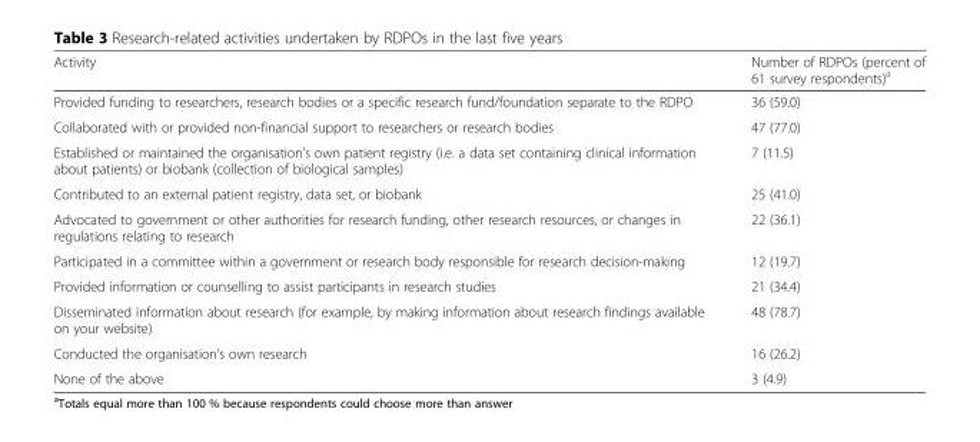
<table><thead><tr><td>Activity</td><td>Number of RDPOs (percent of 61 survey respondents)<sup>a</sup></td></tr></thead><tbody><tr><td>Provided funding to researchers, research bodies or a specific research fund/foundation separate to the RDPO</td><td>36 (59.0)</td></tr><tr><td>Collaborated with or provided non-financial support to researchers or research bodies</td><td>47 (77.0)</td></tr><tr><td>Established or maintained the organisation’s own patient registry (i.e. a data set containing clinical information about patients) or biobank (collection of biological samples)</td><td>7 (11.5)</td></tr><tr><td>Contributed to an external patient registry, data set, or biobank</td><td>25 (41.0)</td></tr><tr><td>Advocated to government or other authorities for research funding, other research resources, or changes in regulations relating to research</td><td>22 (36.1)</td></tr><tr><td>Participated in a committee within a government or research body responsible for research decision-making</td><td>12 (19.7)</td></tr><tr><td>Provided information or counselling to assist participants in research studies</td><td>21 (34.4)</td></tr><tr><td>Disseminated information about research (for example, by making information about research findings available on your website)</td><td>48 (78.7)</td></tr><tr><td>Conducted the organisation’s own research</td><td>16 (26.2)</td></tr><tr><td>None of the above</td><td>3 (4.9)</td></tr></tbody></table>